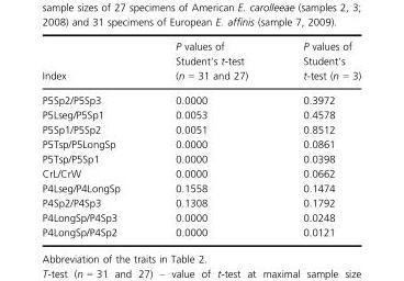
<table><thead><tr><td>Index</td><td>P values of Student’s t-test (n = 31 and 27)</td><td>P values of Student’s t-test (n = 3)</td></tr></thead><tbody><tr><td>P5Sp2/P5Sp3</td><td>0.0000</td><td>0.3972</td></tr><tr><td>P5Lseg/P5Sp1</td><td>0.0053</td><td>0.4578</td></tr><tr><td>P5Sp1/P5Sp2</td><td>0.0051</td><td>0.8512</td></tr><tr><td>P5Tsp/P5LongSp</td><td>0.0000</td><td>0.0861</td></tr><tr><td>P5Tsp/P5Sp1</td><td>0.0000</td><td>0.0398</td></tr><tr><td>CrL/CrW</td><td>0.0000</td><td>0.0662</td></tr><tr><td>P4Lseg/P4LongSp</td><td>0.1558</td><td>0.1474</td></tr><tr><td>P4Sp2/P4Sp3</td><td>0.1308</td><td>0.1792</td></tr><tr><td>P4LongSp/P4Sp3</td><td>0.0000</td><td>0.0248</td></tr><tr><td>P4LongSp/P4Sp2</td><td>0.0000</td><td>0.0121</td></tr></tbody></table>